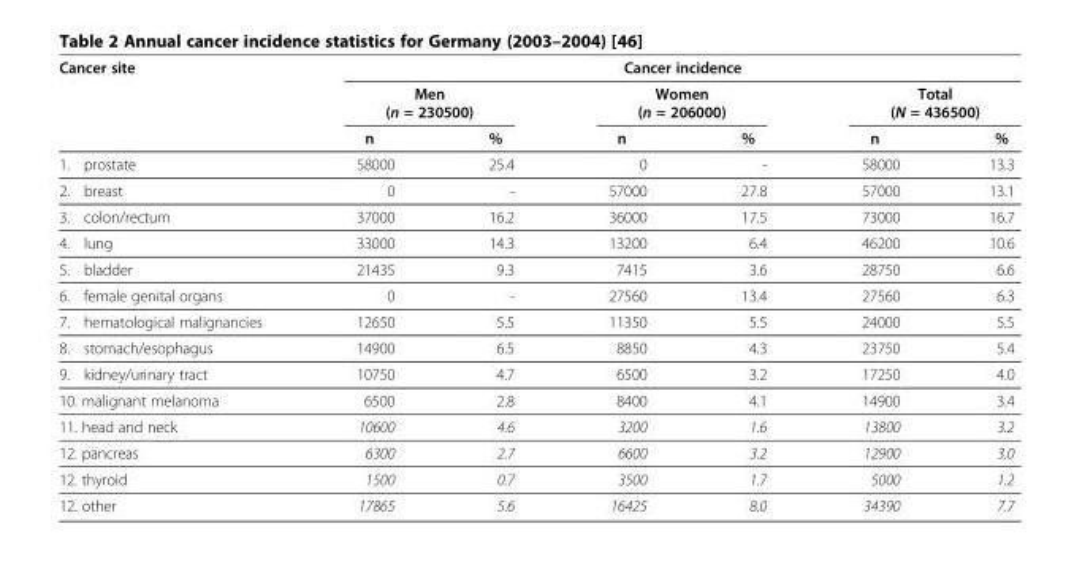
<table><thead><tr><td rowspan="3">Cancer site</td><td colspan="6">Cancer incidence</td></tr><tr><td colspan="2">Men (n = 230500)</td><td colspan="2">Women (n = 206000)</td><td colspan="2">Total (N = 436500)</td></tr><tr><td>n</td><td>%</td><td>n</td><td>%</td><td>n</td><td>%</td></tr></thead><tbody><tr><td>1. prostate</td><td>58000</td><td>25.4</td><td>0</td><td>-</td><td>58000</td><td>13.3</td></tr><tr><td>2. breast</td><td>0</td><td>-</td><td>57000</td><td>27.8</td><td>57000</td><td>13.1</td></tr><tr><td>3. colon/rectum</td><td>37000</td><td>16.2</td><td>36000</td><td>17.5</td><td>73000</td><td>16.7</td></tr><tr><td>4. lung</td><td>33000</td><td>14.3</td><td>13200</td><td>6.4</td><td>46200</td><td>10.6</td></tr><tr><td>5. bladder</td><td>21435</td><td>9.3</td><td>7415</td><td>3.6</td><td>28750</td><td>6.6</td></tr><tr><td>6. female genital organs</td><td>0</td><td>-</td><td>27560</td><td>13.4</td><td>27560</td><td>6.3</td></tr><tr><td>7. hematological malignancies</td><td>12650</td><td>5.5</td><td>11350</td><td>5.5</td><td>24000</td><td>5.5</td></tr><tr><td>8. stomach/esophagus</td><td>14900</td><td>6.5</td><td>8850</td><td>4.3</td><td>23750</td><td>5.4</td></tr><tr><td>9. kidney/urinary tract</td><td>10750</td><td>4.7</td><td>6500</td><td>3.2</td><td>17250</td><td>4.0</td></tr><tr><td>10. malignant melanoma</td><td>6500</td><td>2.8</td><td>8400</td><td>4.1</td><td>14900</td><td>3.4</td></tr><tr><td>11. head and neck</td><td>10600</td><td>4.6</td><td>3200</td><td>1.6</td><td>13800</td><td>3.2</td></tr><tr><td>12. pancreas</td><td>6300</td><td>2.7</td><td>6600</td><td>3.2</td><td>12900</td><td>3.0</td></tr><tr><td>12. thyroid</td><td>1500</td><td>0.7</td><td>3500</td><td>1.7</td><td>5000</td><td>1.2</td></tr><tr><td>12. other</td><td>17865</td><td>5.6</td><td>16425</td><td>8.0</td><td>34390</td><td>7.7</td></tr></tbody></table>